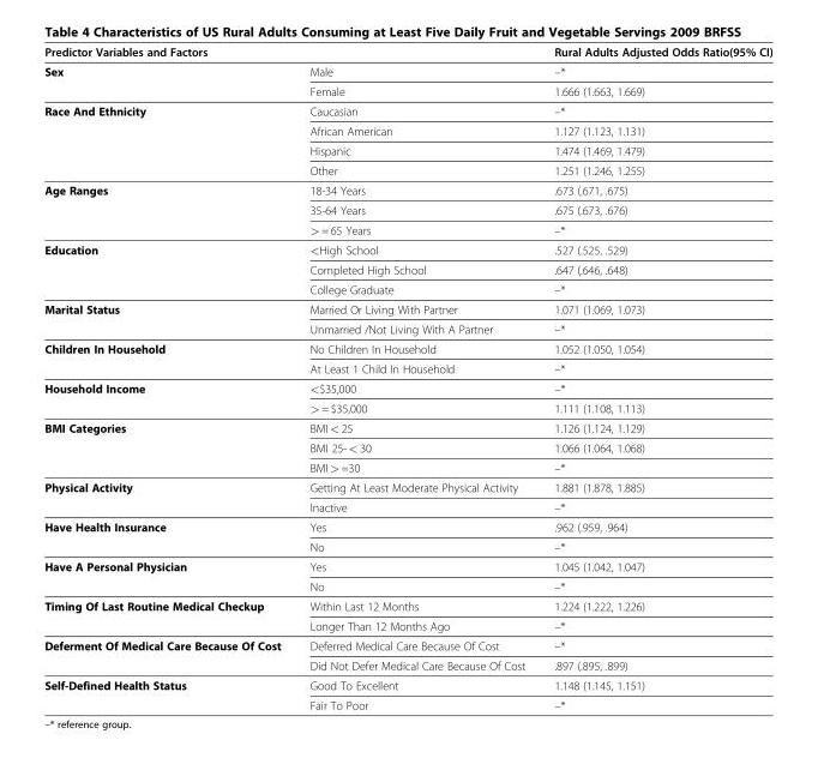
<table><thead><tr><td colspan="2">Predictor Variables and Factors</td><td rowspan="2">Rural Adults Adjusted Odds Ratio(95% CI) –*</td></tr><tr><td>Sex</td><td>Male</td></tr></thead><tbody><tr><td></td><td>Female</td><td>1.666 (1.663, 1.669)</td></tr><tr><td rowspan="4">Race And Ethnicity</td><td>Caucasian</td><td>–*</td></tr><tr><td>African American</td><td>1.127 (1.123, 1.131)</td></tr><tr><td>Hispanic</td><td>1.474 (1.469, 1.479)</td></tr><tr><td>Other</td><td>1.251 (1.246, 1.255)</td></tr><tr><td rowspan="3">Age Ranges</td><td>18-34 Years</td><td>.673 (.671, .675)</td></tr><tr><td>35-64 Years</td><td>.675 (.673, .676)</td></tr><tr><td>&gt; = 65 Years</td><td>–*</td></tr><tr><td rowspan="3">Education</td><td>&lt;High School</td><td>.527 (.525, .529)</td></tr><tr><td>Completed High School</td><td>.647 (.646, .648)</td></tr><tr><td>College Graduate</td><td>–*</td></tr><tr><td rowspan="2">Marital Status</td><td>Married Or Living With Partner</td><td>1.071 (1.069, 1.073)</td></tr><tr><td>Unmarried /Not Living With A Partner</td><td>–*</td></tr><tr><td rowspan="2">Children In Household</td><td>No Children In Household</td><td>1.052 (1.050, 1.054)</td></tr><tr><td>At Least 1 Child In Household</td><td>–*</td></tr><tr><td rowspan="2">Household Income</td><td>&lt;$35,000</td><td>–*</td></tr><tr><td>&gt; = $35,000</td><td>1.111 (1.108, 1.113)</td></tr><tr><td rowspan="3">BMI Categories</td><td>BMI &lt; 25</td><td>1.126 (1.124, 1.129)</td></tr><tr><td>BMI 25- &lt; 30</td><td>1.066 (1.064, 1.068)</td></tr><tr><td>BMI &gt; =30</td><td>–*</td></tr><tr><td rowspan="2">Physical Activity</td><td>Getting At Least Moderate Physical Activity</td><td>1.881 (1.878, 1.885)</td></tr><tr><td>Inactive</td><td>–*</td></tr><tr><td rowspan="2">Have Health Insurance</td><td>Yes</td><td>.962 (.959, .964)</td></tr><tr><td>No</td><td>–*</td></tr><tr><td rowspan="2">Have A Personal Physician</td><td>Yes</td><td>1.045 (1.042, 1.047)</td></tr><tr><td>No</td><td>–*</td></tr><tr><td rowspan="2">Timing Of Last Routine Medical Checkup</td><td>Within Last 12 Months</td><td>1.224 (1.222, 1.226)</td></tr><tr><td>Longer Than 12 Months Ago</td><td>–*</td></tr><tr><td rowspan="2">Deferment Of Medical Care Because Of Cost</td><td>Deferred Medical Care Because Of Cost</td><td>–*</td></tr><tr><td>Did Not Defer Medical Care Because Of Cost</td><td>.897 (.895, .899)</td></tr><tr><td rowspan="2">Self-Defined Health Status</td><td>Good To Excellent</td><td>1.148 (1.145, 1.151)</td></tr><tr><td>Fair To Poor</td><td>–*</td></tr></tbody></table>